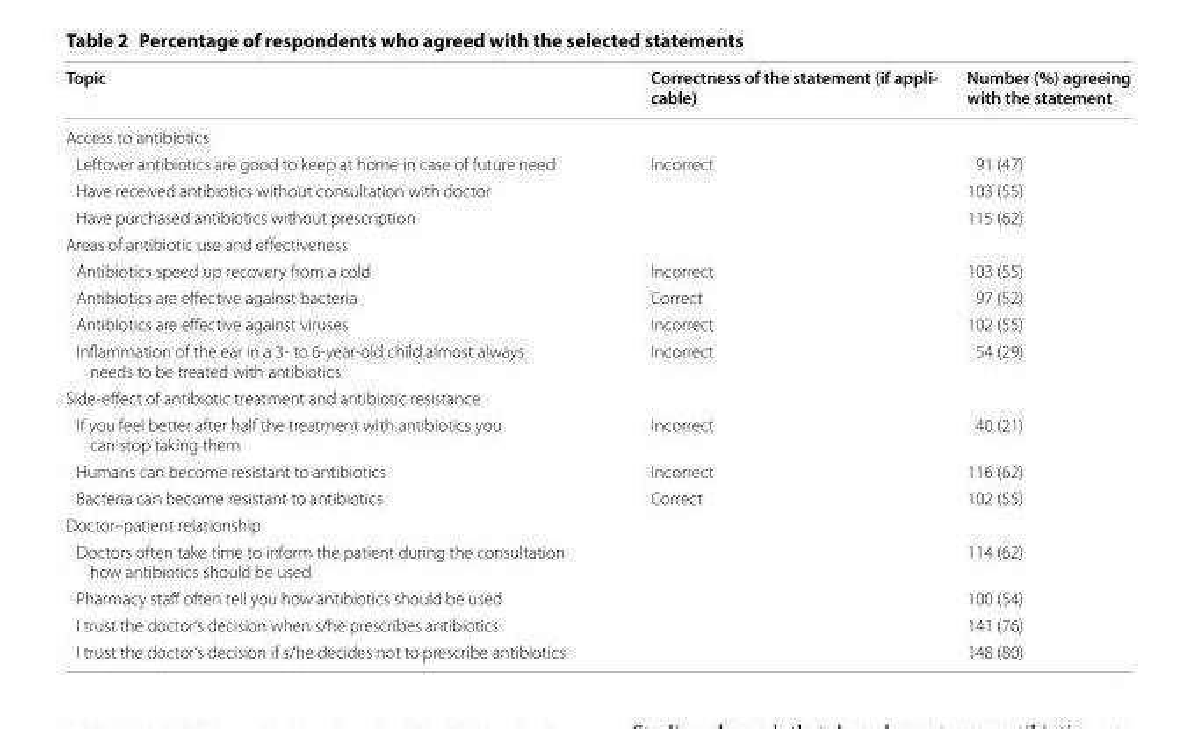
<table><thead><tr><td>Topic</td><td>Correctness of the statement (if appli- cable)</td><td>Number (%) agreeing with the statement</td></tr></thead><tbody><tr><td colspan="3">Access to antibiotics</td></tr><tr><td>Leftover antibiotics are good to keep at home in case of future need</td><td>Incorrect</td><td>91 (47)</td></tr><tr><td>Have received antibiotics without consultation with doctor</td><td></td><td>103 (55)</td></tr><tr><td>Have purchased antibiotics without prescription</td><td></td><td>115 (62)</td></tr><tr><td colspan="3">Areas of antibiotic use and effectiveness</td></tr><tr><td>Antibiotics speed up recovery from a cold</td><td>Incorrect</td><td>103 (55)</td></tr><tr><td>Antibiotics are effective against bacteria</td><td>Correct</td><td>97 (52)</td></tr><tr><td>Antibiotics are effective against viruses</td><td>Incorrect</td><td>102 (55)</td></tr><tr><td>Inflammation of the ear in a 3- to 6-year-old child almost always needs to be treated with antibiotics</td><td>Incorrect</td><td>54 (29)</td></tr><tr><td colspan="3">Side-effect of antibiotic treatment and antibiotic resistance</td></tr><tr><td>If you feel better after half the treatment with antibiotics you can stop taking them</td><td>Incorrect</td><td>40 (21)</td></tr><tr><td>Humans can become resistant to antibiotics</td><td>Incorrect</td><td>116 (62)</td></tr><tr><td>Bacteria can become resistant to antibiotics</td><td>Correct</td><td>102 (55)</td></tr><tr><td colspan="3">Doctor–patient relationship</td></tr><tr><td>Doctors often take time to inform the patient during the consultation how antibiotics should be used</td><td></td><td>114 (62)</td></tr><tr><td>Pharmacy staff often tell you how antibiotics should be used</td><td></td><td>100 (54)</td></tr><tr><td>I trust the doctor’s decision when s/he prescribes antibiotics</td><td></td><td>141 (76)</td></tr><tr><td>I trust the doctor’s decision if s/he decides not to prescribe antibiotics</td><td></td><td>148 (80)</td></tr></tbody></table>